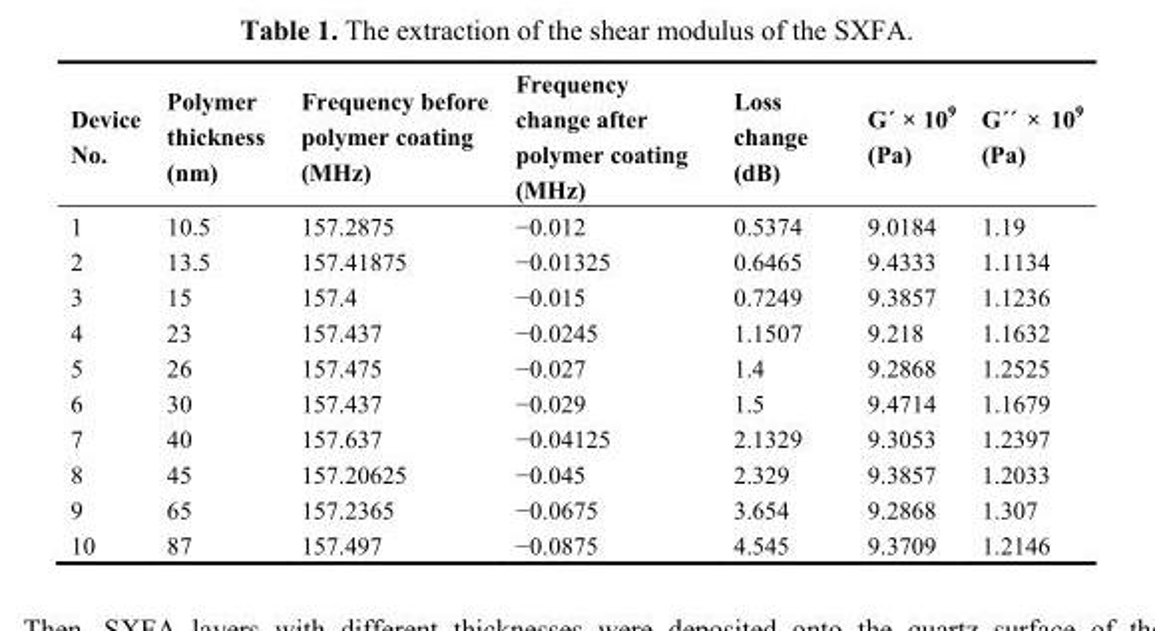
<table><thead><tr><td>Device No.</td><td>Polymer thickness (nm)</td><td>Frequency before polymer coating (MHz)</td><td>Frequency change after polymer coating (MHz)</td><td>Loss change (dB)</td><td>G΄ × 109 (Pa)</td><td>G΄΄ × 109 (Pa)</td></tr></thead><tbody><tr><td>1</td><td>10.5</td><td>157.2875</td><td>−0.012</td><td>0.5374</td><td>9.0184</td><td>1.19</td></tr><tr><td>2</td><td>13.5</td><td>157.41875</td><td>−0.01325</td><td>0.6465</td><td>9.4333</td><td>1.1134</td></tr><tr><td>3</td><td>15</td><td>157.4</td><td>−0.015</td><td>0.7249</td><td>9.3857</td><td>1.1236</td></tr><tr><td>4</td><td>23</td><td>157.437</td><td>−0.0245</td><td>1.1507</td><td>9.218</td><td>1.1632</td></tr><tr><td>5</td><td>26</td><td>157.475</td><td>−0.027</td><td>1.4</td><td>9.2868</td><td>1.2525</td></tr><tr><td>6</td><td>30</td><td>157.437</td><td>−0.029</td><td>1.5</td><td>9.4714</td><td>1.1679</td></tr><tr><td>7</td><td>40</td><td>157.637</td><td>−0.04125</td><td>2.1329</td><td>9.3053</td><td>1.2397</td></tr><tr><td>8</td><td>45</td><td>157.20625</td><td>−0.045</td><td>2.329</td><td>9.3857</td><td>1.2033</td></tr><tr><td>9</td><td>65</td><td>157.2365</td><td>−0.0675</td><td>3.654</td><td>9.2868</td><td>1.307</td></tr><tr><td>10</td><td>87</td><td>157.497</td><td>−0.0875</td><td>4.545</td><td>9.3709</td><td>1.2146</td></tr></tbody></table>